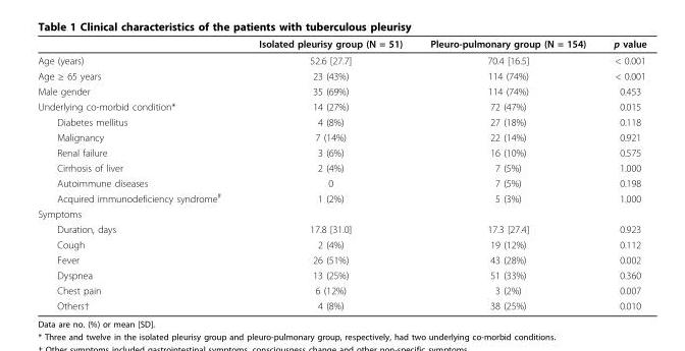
<table><thead><tr><td></td><td>Isolated pleurisy group (N = 51)</td><td>Pleuro-pulmonary group (N = 154)</td><td>p value</td></tr></thead><tbody><tr><td>Age (years)</td><td>52.6 [27.7]</td><td>70.4 [16.5]</td><td>&lt; 0.001</td></tr><tr><td>Age ≥ 65 years</td><td>23 (43%)</td><td>114 (74%)</td><td>&lt; 0.001</td></tr><tr><td>Male gender</td><td>35 (69%)</td><td>114 (74%)</td><td>0.453</td></tr><tr><td>Underlying co-morbid condition*</td><td>14 (27%)</td><td>72 (47%)</td><td>0.015</td></tr><tr><td>Diabetes mellitus</td><td>4 (8%)</td><td>27 (18%)</td><td>0.118</td></tr><tr><td>Malignancy</td><td>7 (14%)</td><td>22 (14%)</td><td>0.921</td></tr><tr><td>Renal failure</td><td>3 (6%)</td><td>16 (10%)</td><td>0.575</td></tr><tr><td>Cirrhosis of liver</td><td>2 (4%)</td><td>7 (5%)</td><td>1.000</td></tr><tr><td>Autoimmune diseases</td><td>0</td><td>7 (5%)</td><td>0.198</td></tr><tr><td>Acquired immunodeficiency syndrome<sup>#</sup></td><td>1 (2%)</td><td>5 (3%)</td><td>1.000</td></tr><tr><td colspan="4">Symptoms</td></tr><tr><td>Duration, days</td><td>17.8 [31.0]</td><td>17.3 [27.4]</td><td>0.923</td></tr><tr><td>Cough</td><td>2 (4%)</td><td>19 (12%)</td><td>0.112</td></tr><tr><td>Fever</td><td>26 (51%)</td><td>43 (28%)</td><td>0.002</td></tr><tr><td>Dyspnea</td><td>13 (25%)</td><td>51 (33%)</td><td>0.360</td></tr><tr><td>Chest pain</td><td>6 (12%)</td><td>3 (2%)</td><td>0.007</td></tr><tr><td>Others†</td><td>4 (8%)</td><td>38 (25%)</td><td>0.010</td></tr></tbody></table>